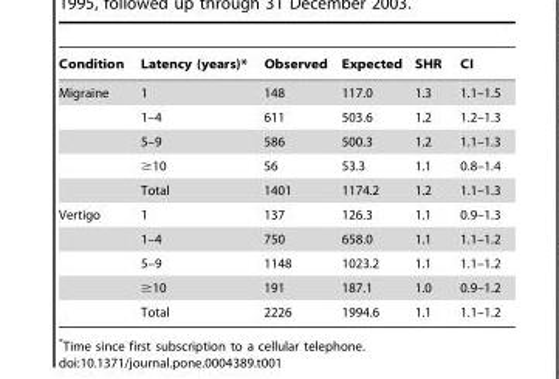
<table><thead><tr><td>Condition</td><td>Latency (years)*</td><td>Observed</td><td>Expected</td><td>SHR</td><td>CI</td></tr></thead><tbody><tr><td rowspan="5">Migraine</td><td>1</td><td>148</td><td>117.0</td><td>1.3</td><td>1.1–1.5</td></tr><tr><td>1–4</td><td>611</td><td>503.6</td><td>1.2</td><td>1.2–1.3</td></tr><tr><td>5–9</td><td>586</td><td>500.3</td><td>1.2</td><td>1.1–1.3</td></tr><tr><td>≥10</td><td>56</td><td>53.3</td><td>1.1</td><td>0.8–1.4</td></tr><tr><td>Total</td><td>1401</td><td>1174.2</td><td>1.2</td><td>1.1–1.3</td></tr><tr><td rowspan="5">Vertigo</td><td>1</td><td>137</td><td>126.3</td><td>1.1</td><td>0.9–1.3</td></tr><tr><td>1–4</td><td>750</td><td>658.0</td><td>1.1</td><td>1.1–1.2</td></tr><tr><td>5–9</td><td>1148</td><td>1023.2</td><td>1.1</td><td>1.1–1.2</td></tr><tr><td>≥10</td><td>191</td><td>187.1</td><td>1.0</td><td>0.9–1.2</td></tr><tr><td>Total</td><td>2226</td><td>1994.6</td><td>1.1</td><td>1.1–1.2</td></tr></tbody></table>